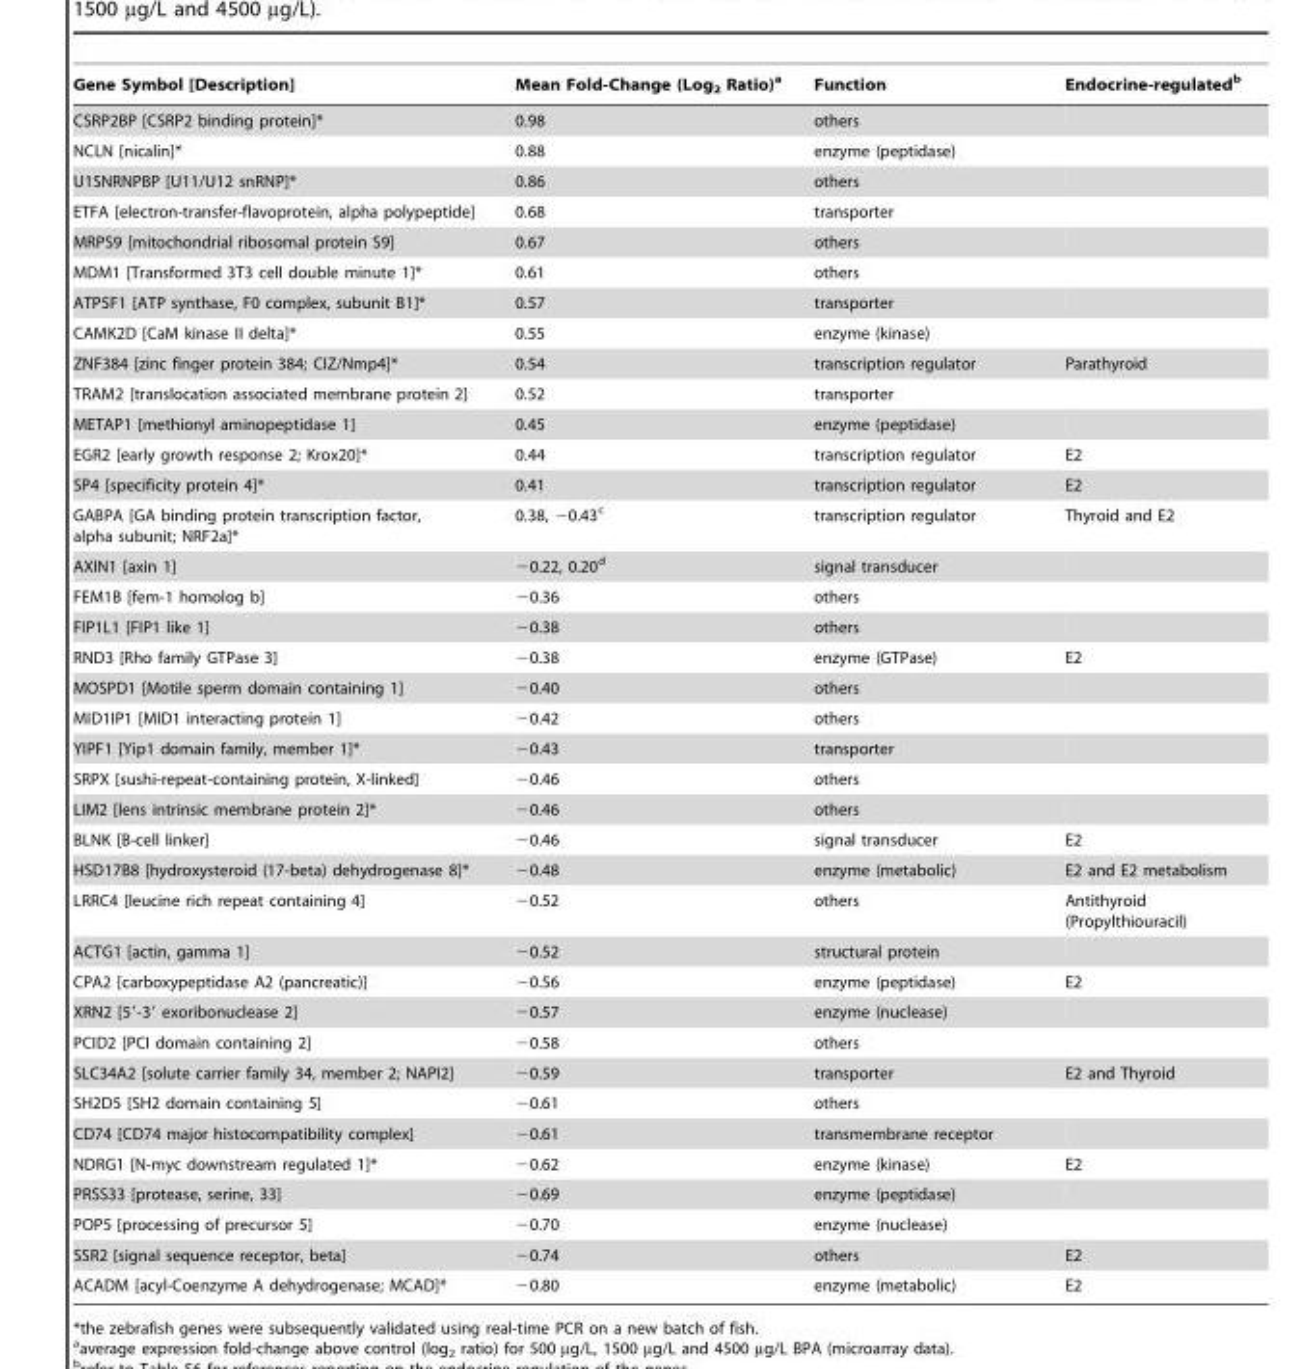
<table><thead><tr><td>Gene Symbol [Description]</td><td>Mean Fold-Change (Log<sub>2</sub> Ratio)<sup>a</sup></td><td>Function</td><td>Endocrine-regulated<sup>b</sup></td></tr></thead><tbody><tr><td>CSRP2BP [CSRP2 binding protein]*</td><td>0.98</td><td>others</td><td></td></tr><tr><td>NCLN [nicalin]*</td><td>0.88</td><td>enzyme (peptidase)</td><td></td></tr><tr><td>U1SNRNPBP [U11/U12 snRNP]*</td><td>0.86</td><td>others</td><td></td></tr><tr><td>ETFA [electron-transfer-flavoprotein, alpha polypeptide]</td><td>0.68</td><td>transporter</td><td></td></tr><tr><td>MRPS9 [mitochondrial ribosomal protein S9]</td><td>0.67</td><td>others</td><td></td></tr><tr><td>MDM1 [Transformed 3T3 cell double minute 1]*</td><td>0.61</td><td>others</td><td></td></tr><tr><td>ATP5F1 [ATP synthase, F0 complex, subunit B1]*</td><td>0.57</td><td>transporter</td><td></td></tr><tr><td>CAMK2D [CaM kinase II delta]*</td><td>0.55</td><td>enzyme (kinase)</td><td></td></tr><tr><td>ZNF384 [zinc finger protein 384; CIZ/Nmp4]*</td><td>0.54</td><td>transcription regulator</td><td>Parathyroid</td></tr><tr><td>TRAM2 [translocation associated membrane protein 2]</td><td>0.52</td><td>transporter</td><td></td></tr><tr><td>METAP1 [methionyl aminopeptidase 1]</td><td>0.45</td><td>enzyme (peptidase)</td><td></td></tr><tr><td>EGR2 [early growth response 2; Krox20]*</td><td>0.44</td><td>transcription regulator</td><td>E2</td></tr><tr><td>SP4 [specificity protein 4]*</td><td>0.41</td><td>transcription regulator</td><td>E2</td></tr><tr><td>GABPA [GA binding protein transcription factor, alpha subunit; NRF2a]*</td><td>0.38, −0.43<sup>c</sup></td><td>transcription regulator</td><td>Thyroid and E2</td></tr><tr><td>AXIN1 [axin 1]</td><td>−0.22, 0.20<sup>d</sup></td><td>signal transducer</td><td></td></tr><tr><td>FEM1B [fem-1 homolog b]</td><td>−0.36</td><td>others</td><td></td></tr><tr><td>FIP1L1 [FIP1 like 1]</td><td>−0.38</td><td>others</td><td></td></tr><tr><td>RND3 [Rho family GTPase 3]</td><td>−0.38</td><td>enzyme (GTPase)</td><td>E2</td></tr><tr><td>MOSPD1 [Motile sperm domain containing 1]</td><td>−0.40</td><td>others</td><td></td></tr><tr><td>MID1IP1 [MID1 interacting protein 1]</td><td>−0.42</td><td>others</td><td></td></tr><tr><td>YIPF1 [Yip1 domain family, member 1]*</td><td>−0.43</td><td>transporter</td><td></td></tr><tr><td>SRPX [sushi-repeat-containing protein, X-linked]</td><td>−0.46</td><td>others</td><td></td></tr><tr><td>LIM2 [lens intrinsic membrane protein 2]*</td><td>−0.46</td><td>others</td><td></td></tr><tr><td>BLNK [B-cell linker]</td><td>−0.46</td><td>signal transducer</td><td>E2</td></tr><tr><td>HSD17B8 [hydroxysteroid (17-beta) dehydrogenase 8]*</td><td>−0.48</td><td>enzyme (metabolic)</td><td>E2 and E2 metabolism</td></tr><tr><td>LRRC4 [leucine rich repeat containing 4]</td><td>−0.52</td><td>others</td><td>Antithyroid (Propylthiouracil)</td></tr><tr><td>ACTG1 [actin, gamma 1]</td><td>−0.52</td><td>structural protein</td><td></td></tr><tr><td>CPA2 [carboxypeptidase A2 (pancreatic)]</td><td>−0.56</td><td>enzyme (peptidase)</td><td>E2</td></tr><tr><td>XRN2 [5′-3′ exoribonuclease 2]</td><td>−0.57</td><td>enzyme (nuclease)</td><td></td></tr><tr><td>PCID2 [PCI domain containing 2]</td><td>−0.58</td><td>others</td><td></td></tr><tr><td>SLC34A2 [solute carrier family 34, member 2; NAPI2]</td><td>−0.59</td><td>transporter</td><td>E2 and Thyroid</td></tr><tr><td>SH2D5 [SH2 domain containing 5]</td><td>−0.61</td><td>others</td><td></td></tr><tr><td>CD74 [CD74 major histocompatibility complex]</td><td>−0.61</td><td>transmembrane receptor</td><td></td></tr><tr><td>NDRG1 [N-myc downstream regulated 1]*</td><td>−0.62</td><td>enzyme (kinase)</td><td>E2</td></tr><tr><td>PRSS33 [protease, serine, 33]</td><td>−0.69</td><td>enzyme (peptidase)</td><td></td></tr><tr><td>POP5 [processing of precursor 5]</td><td>−0.70</td><td>enzyme (nuclease)</td><td></td></tr><tr><td>SSR2 [signal sequence receptor, beta]</td><td>−0.74</td><td>others</td><td>E2</td></tr><tr><td>ACADM [acyl-Coenzyme A dehydrogenase; MCAD]*</td><td>−0.80</td><td>enzyme (metabolic)</td><td>E2</td></tr></tbody></table>